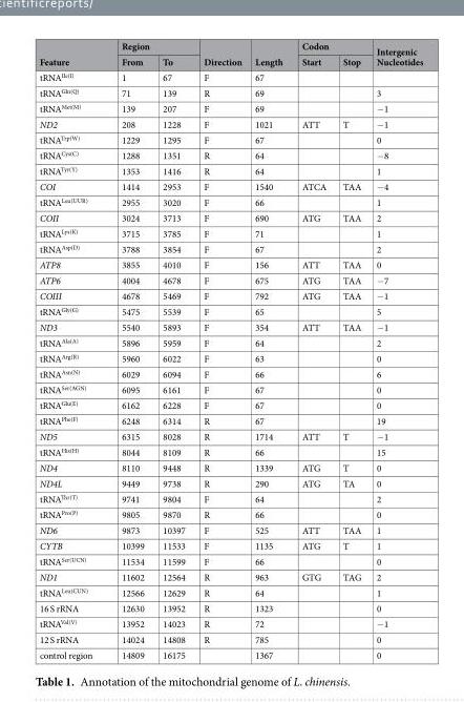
<table><thead><tr><td rowspan="2">Feature</td><td colspan="2">Region</td><td rowspan="2">Direction</td><td rowspan="2">Length</td><td colspan="2">Codon</td><td rowspan="2">Intergenic Nucleotides</td></tr><tr><td>From</td><td>To</td><td>Start</td><td>Stop</td></tr></thead><tbody><tr><td>tRNA<sup>Ile(I)</sup></td><td>1</td><td>67</td><td>F</td><td>67</td><td></td><td></td><td></td></tr><tr><td>tRNA<sup>Gln(Q)</sup></td><td>71</td><td>139</td><td>R</td><td>69</td><td></td><td></td><td>3</td></tr><tr><td>tRNA<sup>Met(M)</sup></td><td>139</td><td>207</td><td>F</td><td>69</td><td></td><td></td><td>−1</td></tr><tr><td>ND2</td><td>208</td><td>1228</td><td>F</td><td>1021</td><td>ATT</td><td>T</td><td>−1</td></tr><tr><td>tRNA<sup>Trp(W)</sup></td><td>1229</td><td>1295</td><td>F</td><td>67</td><td></td><td></td><td>0</td></tr><tr><td>tRNA<sup>Cys(C)</sup></td><td>1288</td><td>1351</td><td>R</td><td>64</td><td></td><td></td><td>−8</td></tr><tr><td>tRNA<sup>Tyr(Y)</sup></td><td>1353</td><td>1416</td><td>R</td><td>64</td><td></td><td></td><td>1</td></tr><tr><td>COI</td><td>1414</td><td>2953</td><td>F</td><td>1540</td><td>ATCA</td><td>TAA</td><td>−4</td></tr><tr><td>tRNA<sup>Leu(UUR)</sup></td><td>2955</td><td>3020</td><td>F</td><td>66</td><td></td><td></td><td>1</td></tr><tr><td>COII</td><td>3024</td><td>3713</td><td>F</td><td>690</td><td>ATG</td><td>TAA</td><td>2</td></tr><tr><td>tRNA<sup>Lys(K)</sup></td><td>3715</td><td>3785</td><td>F</td><td>71</td><td></td><td></td><td>1</td></tr><tr><td>tRNA<sup>Asp(D)</sup></td><td>3788</td><td>3854</td><td>F</td><td>67</td><td></td><td></td><td>2</td></tr><tr><td>ATP8</td><td>3855</td><td>4010</td><td>F</td><td>156</td><td>ATT</td><td>TAA</td><td>0</td></tr><tr><td>ATP6</td><td>4004</td><td>4678</td><td>F</td><td>675</td><td>ATG</td><td>TAA</td><td>−7</td></tr><tr><td>COIII</td><td>4678</td><td>5469</td><td>F</td><td>792</td><td>ATG</td><td>TAA</td><td>−1</td></tr><tr><td>tRNA<sup>Gly(G)</sup></td><td>5475</td><td>5539</td><td>F</td><td>65</td><td></td><td></td><td>5</td></tr><tr><td>ND3</td><td>5540</td><td>5893</td><td>F</td><td>354</td><td>ATT</td><td>TAA</td><td>−1</td></tr><tr><td>tRNA<sup>Ala(A)</sup></td><td>5896</td><td>5959</td><td>F</td><td>64</td><td></td><td></td><td>2</td></tr><tr><td>tRNA<sup>Arg(R)</sup></td><td>5960</td><td>6022</td><td>F</td><td>63</td><td></td><td></td><td>0</td></tr><tr><td>tRNA<sup>Asn(N)</sup></td><td>6029</td><td>6094</td><td>F</td><td>66</td><td></td><td></td><td>6</td></tr><tr><td>tRNA<sup>Ser(AGN)</sup></td><td>6095</td><td>6161</td><td>F</td><td>67</td><td></td><td></td><td>0</td></tr><tr><td>tRNA<sup>Glu(E)</sup></td><td>6162</td><td>6228</td><td>F</td><td>67</td><td></td><td></td><td>0</td></tr><tr><td>tRNA<sup>Phe(F)</sup></td><td>6248</td><td>6314</td><td>R</td><td>67</td><td></td><td></td><td>19</td></tr><tr><td>ND5</td><td>6315</td><td>8028</td><td>R</td><td>1714</td><td>ATT</td><td>T</td><td>−1</td></tr><tr><td>tRNA<sup>His(H)</sup></td><td>8044</td><td>8109</td><td>R</td><td>66</td><td></td><td></td><td>15</td></tr><tr><td>ND4</td><td>8110</td><td>9448</td><td>R</td><td>1339</td><td>ATG</td><td>T</td><td>0</td></tr><tr><td>ND4L</td><td>9449</td><td>9738</td><td>R</td><td>290</td><td>ATG</td><td>TA</td><td>0</td></tr><tr><td>tRNA<sup>Thr(T)</sup></td><td>9741</td><td>9804</td><td>F</td><td>64</td><td></td><td></td><td>2</td></tr><tr><td>tRNA<sup>Pro(P)</sup></td><td>9805</td><td>9870</td><td>R</td><td>66</td><td></td><td></td><td>0</td></tr><tr><td>ND6</td><td>9873</td><td>10397</td><td>F</td><td>525</td><td>ATT</td><td>TAA</td><td>1</td></tr><tr><td>CYTB</td><td>10399</td><td>11533</td><td>F</td><td>1135</td><td>ATG</td><td>T</td><td>1</td></tr><tr><td>tRNA<sup>Ser(UCN)</sup></td><td>11534</td><td>11599</td><td>F</td><td>66</td><td></td><td></td><td>0</td></tr><tr><td>ND1</td><td>11602</td><td>12564</td><td>R</td><td>963</td><td>GTG</td><td>TAG</td><td>2</td></tr><tr><td>tRNA<sup>Leu(CUN)</sup></td><td>12566</td><td>12629</td><td>R</td><td>64</td><td></td><td></td><td>1</td></tr><tr><td>16 S rRNA</td><td>12630</td><td>13952</td><td>R</td><td>1323</td><td></td><td></td><td>0</td></tr><tr><td>tRNA<sup>Val(V)</sup></td><td>13952</td><td>14023</td><td>R</td><td>72</td><td></td><td></td><td>−1</td></tr><tr><td>12 S rRNA</td><td>14024</td><td>14808</td><td>R</td><td>785</td><td></td><td></td><td>0</td></tr><tr><td>control region</td><td>14809</td><td>16175</td><td></td><td>1367</td><td></td><td></td><td>0</td></tr></tbody></table>